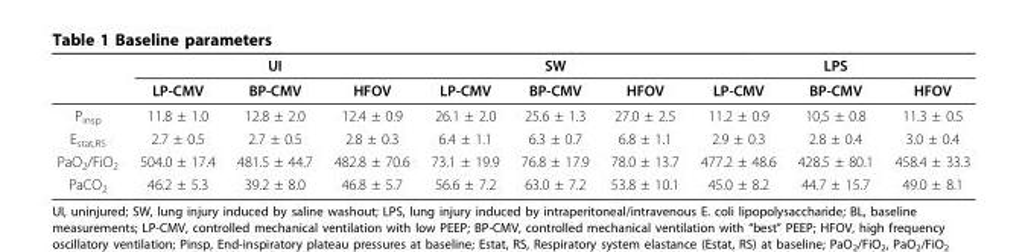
<table><thead><tr><td rowspan="2"></td><td colspan="3">UI</td><td colspan="3">SW</td><td colspan="3">LPS</td></tr><tr><td>LP-CMV</td><td>BP-CMV</td><td>HFOV</td><td>LP-CMV</td><td>BP-CMV</td><td>HFOV</td><td>LP-CMV</td><td>BP-CMV</td><td>HFOV</td></tr></thead><tbody><tr><td>P<sub>insp</sub></td><td>11.8 ± 1.0</td><td>12.8 ± 2.0</td><td>12.4 ± 0.9</td><td>26.1 ± 2.0</td><td>25.6 ± 1.3</td><td>27.0 ± 2.5</td><td>11.2 ± 0.9</td><td>10,5 ± 0.8</td><td>11.3 ± 0.5</td></tr><tr><td>E<sub>stat,RS</sub></td><td>2.7 ± 0.5</td><td>2.7 ± 0.5</td><td>2.8 ± 0.3</td><td>6.4 ± 1.1</td><td>6.3 ± 0.7</td><td>6.8 ± 1.1</td><td>2.9 ± 0.3</td><td>2.8 ± 0.4</td><td>3.0 ± 0.4</td></tr><tr><td>PaO<sub>2</sub>/FiO<sub>2</sub></td><td>504.0 ± 17.4</td><td>481.5 ± 44.7</td><td>482.8 ± 70.6</td><td>73.1 ± 19.9</td><td>76.8 ± 17.9</td><td>78.0 ± 13.7</td><td>477.2 ± 48.6</td><td>428.5 ± 80.1</td><td>458.4 ± 33.3</td></tr><tr><td>PaCO<sub>2</sub></td><td>46.2 ± 5.3</td><td>39.2 ± 8.0</td><td>46.8 ± 5.7</td><td>56.6 ± 7.2</td><td>63.0 ± 7.2</td><td>53.8 ± 10.1</td><td>45.0 ± 8.2</td><td>44.7 ± 15.7</td><td>49.0 ± 8.1</td></tr></tbody></table>